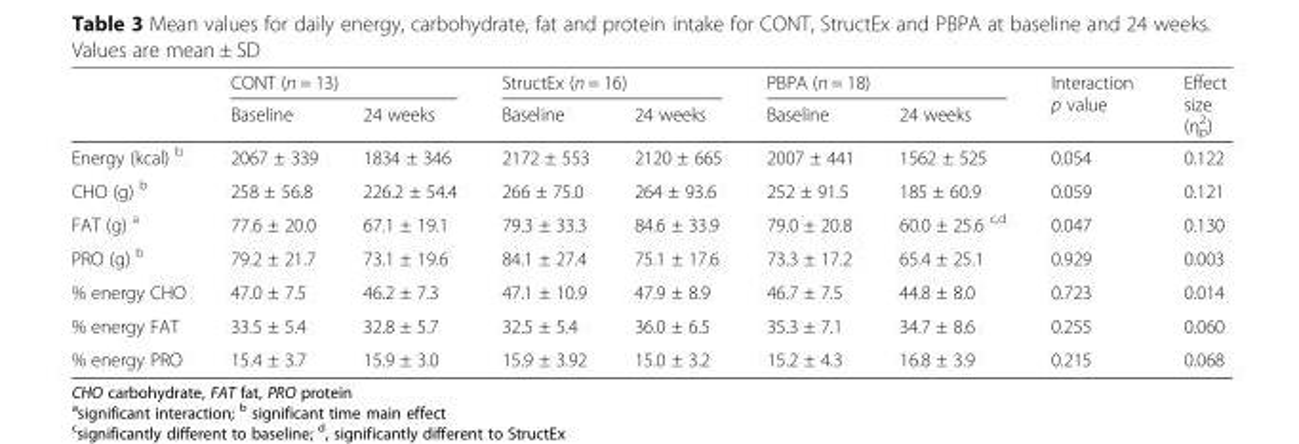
<table><thead><tr><td rowspan="2"></td><td colspan="2">CONT (n = 13)</td><td colspan="2">StructEx (n = 16)</td><td colspan="2">PBPA (n = 18)</td><td rowspan="2">Interaction p value</td><td rowspan="2">Effect size (η<sup>2</sup> <sub>p</sub>)</td></tr><tr><td>Baseline</td><td>24 weeks</td><td>Baseline</td><td>24 weeks</td><td>Baseline</td><td>24 weeks</td></tr></thead><tbody><tr><td>Energy (kcal) <sup>b</sup></td><td>2067 ± 339</td><td>1834 ± 346</td><td>2172 ± 553</td><td>2120 ± 665</td><td>2007 ± 441</td><td>1562 ± 525</td><td>0.054</td><td>0.122</td></tr><tr><td>CHO (g) <sup>b</sup></td><td>258 ± 56.8</td><td>226.2 ± 54.4</td><td>266 ± 75.0</td><td>264 ± 93.6</td><td>252 ± 91.5</td><td>185 ± 60.9</td><td>0.059</td><td>0.121</td></tr><tr><td>FAT (g) <sup>a</sup></td><td>77.6 ± 20.0</td><td>67.1 ± 19.1</td><td>79.3 ± 33.3</td><td>84.6 ± 33.9</td><td>79.0 ± 20.8</td><td>60.0 ± 25.6 <sup>c,d</sup></td><td>0.047</td><td>0.130</td></tr><tr><td>PRO (g) <sup>b</sup></td><td>79.2 ± 21.7</td><td>73.1 ± 19.6</td><td>84.1 ± 27.4</td><td>75.1 ± 17.6</td><td>73.3 ± 17.2</td><td>65.4 ± 25.1</td><td>0.929</td><td>0.003</td></tr><tr><td>% energy CHO</td><td>47.0 ± 7.5</td><td>46.2 ± 7.3</td><td>47.1 ± 10.9</td><td>47.9 ± 8.9</td><td>46.7 ± 7.5</td><td>44.8 ± 8.0</td><td>0.723</td><td>0.014</td></tr><tr><td>% energy FAT</td><td>33.5 ± 5.4</td><td>32.8 ± 5.7</td><td>32.5 ± 5.4</td><td>36.0 ± 6.5</td><td>35.3 ± 7.1</td><td>34.7 ± 8.6</td><td>0.255</td><td>0.060</td></tr><tr><td>% energy PRO</td><td>15.4 ± 3.7</td><td>15.9 ± 3.0</td><td>15.9 ± 3.92</td><td>15.0 ± 3.2</td><td>15.2 ± 4.3</td><td>16.8 ± 3.9</td><td>0.215</td><td>0.068</td></tr></tbody></table>